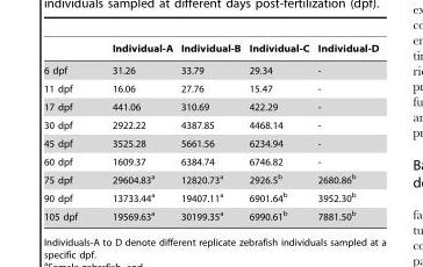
<table><thead><tr><td></td><td>Individual-A</td><td>Individual-B</td><td>Individual-C</td><td>Individual-D</td></tr></thead><tbody><tr><td>6 dpf</td><td>31.26</td><td>33.79</td><td>29.34</td><td>-</td></tr><tr><td>11 dpf</td><td>16.06</td><td>27.76</td><td>15.47</td><td>-</td></tr><tr><td>17 dpf</td><td>441.06</td><td>310.69</td><td>422.29</td><td>-</td></tr><tr><td>30 dpf</td><td>2922.22</td><td>4387.85</td><td>4468.14</td><td>-</td></tr><tr><td>45 dpf</td><td>3525.28</td><td>5661.56</td><td>6234.94</td><td>-</td></tr><tr><td>60 dpf</td><td>1609.37</td><td>6384.74</td><td>6746.82</td><td>-</td></tr><tr><td>75 dpf</td><td>29604.83<sup>a</sup></td><td>12820.73<sup>a</sup></td><td>2926.5<sup>b</sup></td><td>2680.86<sup>b</sup></td></tr><tr><td>90 dpf</td><td>13733.44<sup>a</sup></td><td>19407.11<sup>a</sup></td><td>6901.64<sup>b</sup></td><td>3952.30<sup>b</sup></td></tr><tr><td>105 dpf</td><td>19569.63<sup>a</sup></td><td>30199.35<sup>a</sup></td><td>6990.61<sup>b</sup></td><td>7881.50<sup>b</sup></td></tr></tbody></table>